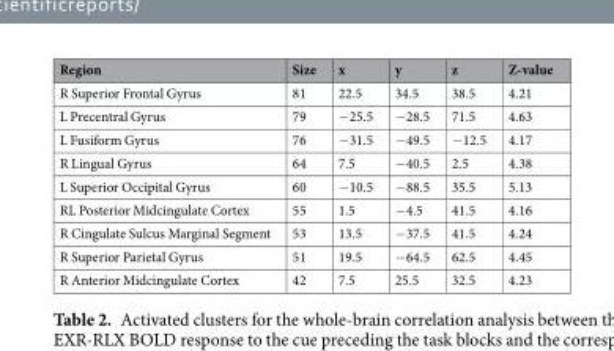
<table><thead><tr><td>Region</td><td>Size</td><td>x</td><td>y</td><td>z</td><td>Z-value</td></tr></thead><tbody><tr><td>R Superior Frontal Gyrus</td><td>81</td><td>22.5</td><td>34.5</td><td>38.5</td><td>4.21</td></tr><tr><td>L Precentral Gyrus</td><td>79</td><td>−25.5</td><td>−28.5</td><td>71.5</td><td>4.63</td></tr><tr><td>L Fusiform Gyrus</td><td>76</td><td>−31.5</td><td>−49.5</td><td>−12.5</td><td>4.17</td></tr><tr><td>R Lingual Gyrus</td><td>64</td><td>7.5</td><td>−40.5</td><td>2.5</td><td>4.38</td></tr><tr><td>L Superior Occipital Gyrus</td><td>60</td><td>−10.5</td><td>−88.5</td><td>35.5</td><td>5.13</td></tr><tr><td>RL Posterior Midcingulate Cortex</td><td>55</td><td>1.5</td><td>−4.5</td><td>41.5</td><td>4.16</td></tr><tr><td>R Cingulate Sulcus Marginal Segment</td><td>53</td><td>13.5</td><td>−37.5</td><td>41.5</td><td>4.24</td></tr><tr><td>R Superior Parietal Gyrus</td><td>51</td><td>19.5</td><td>−64.5</td><td>62.5</td><td>4.45</td></tr><tr><td>R Anterior Midcingulate Cortex</td><td>42</td><td>7.5</td><td>25.5</td><td>32.5</td><td>4.23</td></tr></tbody></table>